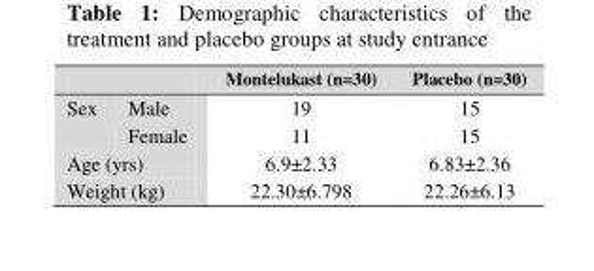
<table><thead><tr><td></td><td></td><td>Montelukast (n=30)</td><td>Placebo (n=30)</td></tr></thead><tbody><tr><td rowspan="2">Sex</td><td>Male</td><td>19</td><td>15</td></tr><tr><td>Female</td><td>11</td><td>15</td></tr><tr><td colspan="2">Age (yrs)</td><td>6.9±2.33</td><td>6.83±2.36</td></tr><tr><td colspan="2">Weight (kg)</td><td>22.30±6.798</td><td>22.26±6.13</td></tr></tbody></table>